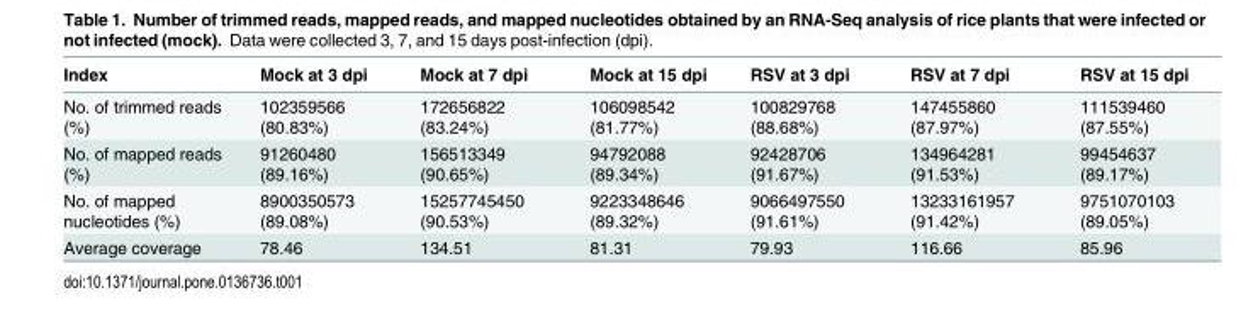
<table><thead><tr><td>Index</td><td>Mock at 3 dpi</td><td>Mock at 7 dpi</td><td>Mock at 15 dpi</td><td>RSV at 3 dpi</td><td>RSV at 7 dpi</td><td>RSV at 15 dpi</td></tr></thead><tbody><tr><td>No. of trimmed reads (%)</td><td>102359566 (80.83%)</td><td>172656822 (83.24%)</td><td>106098542 (81.77%)</td><td>100829768 (88.68%)</td><td>147455860 (87.97%)</td><td>111539460 (87.55%)</td></tr><tr><td>No. of mapped reads (%)</td><td>91260480 (89.16%)</td><td>156513349 (90.65%)</td><td>94792088 (89.34%)</td><td>92428706 (91.67%)</td><td>134964281 (91.53%)</td><td>99454637 (89.17%)</td></tr><tr><td>No. of mapped nucleotides (%)</td><td>8900350573 (89.08%)</td><td>15257745450 (90.53%)</td><td>9223348646 (89.32%)</td><td>9066497550 (91.61%)</td><td>13233161957 (91.42%)</td><td>9751070103 (89.05%)</td></tr><tr><td>Average coverage</td><td>78.46</td><td>134.51</td><td>81.31</td><td>79.93</td><td>116.66</td><td>85.96</td></tr></tbody></table>